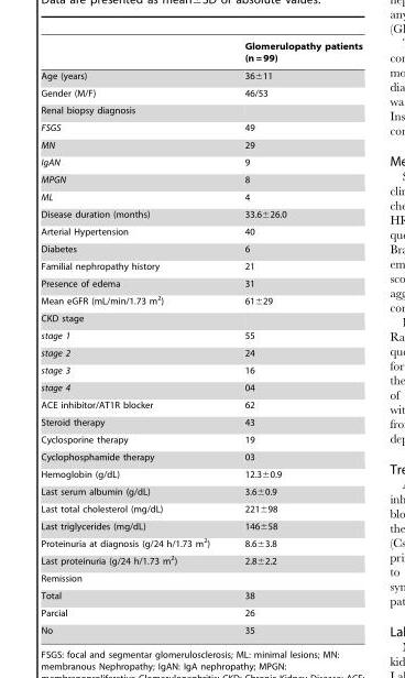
<table><thead><tr><td></td><td>Glomerulopathy patients (n = 99)</td></tr></thead><tbody><tr><td>Age (years)</td><td>36±11</td></tr><tr><td>Gender (M/F)</td><td>46/53</td></tr><tr><td colspan="2">Renal biopsy diagnosis</td></tr><tr><td>FSGS</td><td>49</td></tr><tr><td>MN</td><td>29</td></tr><tr><td>IgAN</td><td>9</td></tr><tr><td>MPGN</td><td>8</td></tr><tr><td>ML</td><td>4</td></tr><tr><td>Disease duration (months)</td><td>33.6±26.0</td></tr><tr><td>Arterial Hypertension</td><td>40</td></tr><tr><td>Diabetes</td><td>6</td></tr><tr><td>Familial nephropathy history</td><td>21</td></tr><tr><td>Presence of edema</td><td>31</td></tr><tr><td>Mean eGFR (mL/min/1.73 m<sup>2</sup>)</td><td>61±29</td></tr><tr><td colspan="2">CKD stage</td></tr><tr><td>stage 1</td><td>55</td></tr><tr><td>stage 2</td><td>24</td></tr><tr><td>stage 3</td><td>16</td></tr><tr><td>stage 4</td><td>04</td></tr><tr><td>ACE inhibitor/AT1R blocker</td><td>62</td></tr><tr><td>Steroid therapy</td><td>43</td></tr><tr><td>Cyclosporine therapy</td><td>19</td></tr><tr><td>Cyclophosphamide therapy</td><td>03</td></tr><tr><td>Hemoglobin (g/dL)</td><td>12.3±0.9</td></tr><tr><td>Last serum albumin (g/dL)</td><td>3.6±0.9</td></tr><tr><td>Last total cholesterol (mg/dL)</td><td>221±98</td></tr><tr><td>Last triglycerides (mg/dL)</td><td>146±58</td></tr><tr><td>Proteinuria at diagnosis (g/24 h/1.73 m<sup>2</sup>)</td><td>8.6±3.8</td></tr><tr><td>Last proteinuria (g/24 h/1.73 m<sup>2</sup>)</td><td>2.8±2.2</td></tr><tr><td colspan="2">Remission</td></tr><tr><td>Total</td><td>38</td></tr><tr><td>Parcial</td><td>26</td></tr><tr><td>No</td><td>35</td></tr></tbody></table>